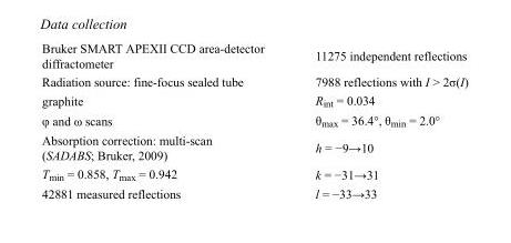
<table><tbody><tr><td>Bruker SMART APEXII CCD area-detector diffractometer</td><td>11275 independent reflections</td></tr><tr><td>Radiation source: fine-focus sealed tube</td><td>7988 reflections with I &gt; 2σ(I)</td></tr><tr><td>graphite</td><td>R<sub>int</sub> = 0.034</td></tr><tr><td>φ and ω scans</td><td>θ<sub>max</sub> = 36.4°, θ<sub>min</sub> = 2.0°</td></tr><tr><td>Absorption correction: multi-scan (SADABS; Bruker, 2009)</td><td>h = −9→10</td></tr><tr><td>T<sub>min</sub> = 0.858, T<sub>max</sub> = 0.942</td><td>k = −31→31</td></tr><tr><td>42881 measured reflections</td><td>l = −33→33</td></tr></tbody></table>